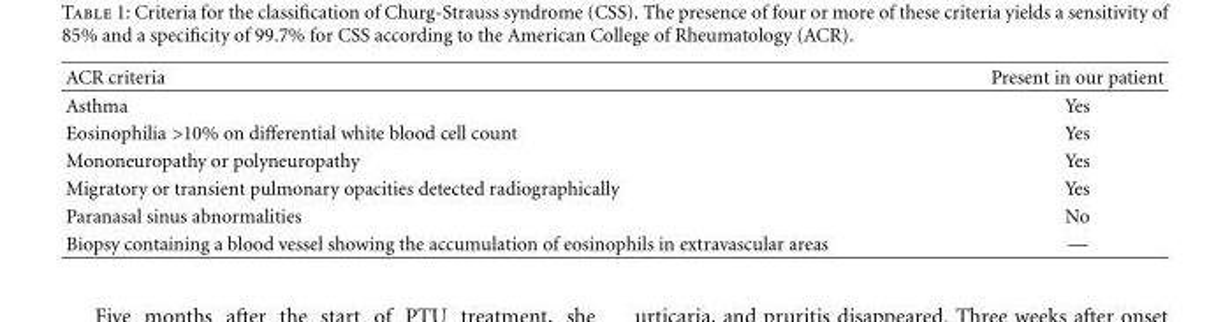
<table><thead><tr><td>ACR criteria</td><td>Present in our patient</td></tr></thead><tbody><tr><td>Asthma</td><td>Yes</td></tr><tr><td>Eosinophilia &gt;10% on differential white blood cell count</td><td>Yes</td></tr><tr><td>Mononeuropathy or polyneuropathy</td><td>Yes</td></tr><tr><td>Migratory or transient pulmonary opacities detected radiographically</td><td>Yes</td></tr><tr><td>Paranasal sinus abnormalities</td><td>No</td></tr><tr><td>Biopsy containing a blood vessel showing the accumulation of eosinophils in extravascular areas</td><td>—</td></tr></tbody></table>